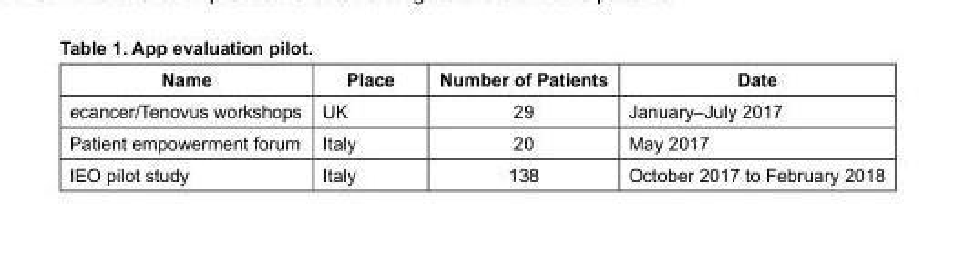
<table><thead><tr><td>Name</td><td>Place</td><td>Number of Patients</td><td>Date</td></tr></thead><tbody><tr><td>ecancer/Tenovus workshops</td><td>UK</td><td>29</td><td>January–July 2017</td></tr><tr><td>Patient empowerment forum</td><td>Italy</td><td>20</td><td>May 2017</td></tr><tr><td>IEO pilot study</td><td>Italy</td><td>138</td><td>October 2017 to February 2018</td></tr></tbody></table>